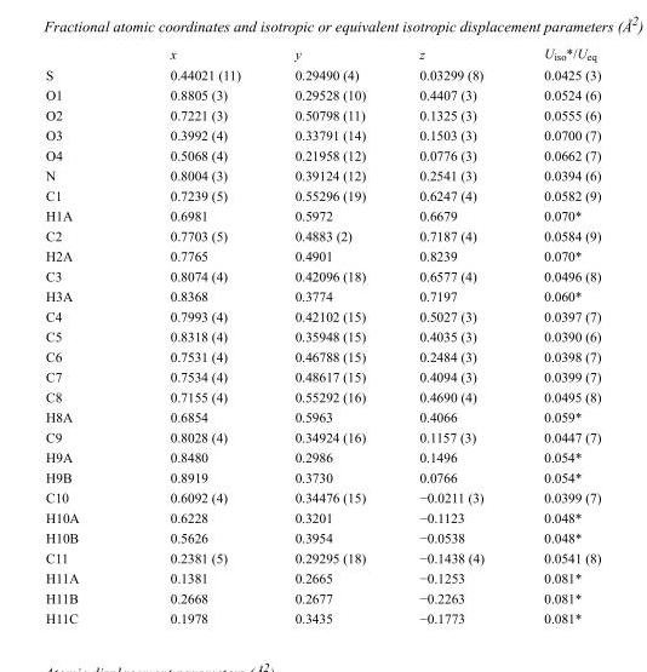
<table><thead><tr><td></td><td>x</td><td>y</td><td>z</td><td>U<sub>iso</sub>*/U<sub>eq</sub></td></tr></thead><tbody><tr><td>S</td><td>0.44021 (11)</td><td>0.29490 (4)</td><td>0.03299 (8)</td><td>0.0425 (3)</td></tr><tr><td>O1</td><td>0.8805 (3)</td><td>0.29528 (10)</td><td>0.4407 (3)</td><td>0.0524 (6)</td></tr><tr><td>O2</td><td>0.7221 (3)</td><td>0.50798 (11)</td><td>0.1325 (3)</td><td>0.0555 (6)</td></tr><tr><td>O3</td><td>0.3992 (4)</td><td>0.33791 (14)</td><td>0.1503 (3)</td><td>0.0700 (7)</td></tr><tr><td>O4</td><td>0.5068 (4)</td><td>0.21958 (12)</td><td>0.0776 (3)</td><td>0.0662 (7)</td></tr><tr><td>N</td><td>0.8004 (3)</td><td>0.39124 (12)</td><td>0.2541 (3)</td><td>0.0394 (6)</td></tr><tr><td>C1</td><td>0.7239 (5)</td><td>0.55296 (19)</td><td>0.6247 (4)</td><td>0.0582 (9)</td></tr><tr><td>H1A</td><td>0.6981</td><td>0.5972</td><td>0.6679</td><td>0.070*</td></tr><tr><td>C2</td><td>0.7703 (5)</td><td>0.4883 (2)</td><td>0.7187 (4)</td><td>0.0584 (9)</td></tr><tr><td>H2A</td><td>0.7765</td><td>0.4901</td><td>0.8239</td><td>0.070*</td></tr><tr><td>C3</td><td>0.8074 (4)</td><td>0.42096 (18)</td><td>0.6577 (4)</td><td>0.0496 (8)</td></tr><tr><td>H3A</td><td>0.8368</td><td>0.3774</td><td>0.7197</td><td>0.060*</td></tr><tr><td>C4</td><td>0.7993 (4)</td><td>0.42102 (15)</td><td>0.5027 (3)</td><td>0.0397 (7)</td></tr><tr><td>C5</td><td>0.8318 (4)</td><td>0.35948 (15)</td><td>0.4035 (3)</td><td>0.0390 (6)</td></tr><tr><td>C6</td><td>0.7531 (4)</td><td>0.46788 (15)</td><td>0.2484 (3)</td><td>0.0398 (7)</td></tr><tr><td>C7</td><td>0.7534 (4)</td><td>0.48617 (15)</td><td>0.4094 (3)</td><td>0.0399 (7)</td></tr><tr><td>C8</td><td>0.7155 (4)</td><td>0.55292 (16)</td><td>0.4690 (4)</td><td>0.0495 (8)</td></tr><tr><td>H8A</td><td>0.6854</td><td>0.5963</td><td>0.4066</td><td>0.059*</td></tr><tr><td>C9</td><td>0.8028 (4)</td><td>0.34924 (16)</td><td>0.1157 (3)</td><td>0.0447 (7)</td></tr><tr><td>H9A</td><td>0.8480</td><td>0.2986</td><td>0.1496</td><td>0.054*</td></tr><tr><td>H9B</td><td>0.8919</td><td>0.3730</td><td>0.0766</td><td>0.054*</td></tr><tr><td>C10</td><td>0.6092 (4)</td><td>0.34476 (15)</td><td>−0.0211 (3)</td><td>0.0399 (7)</td></tr><tr><td>H10A</td><td>0.6228</td><td>0.3201</td><td>−0.1123</td><td>0.048*</td></tr><tr><td>H10B</td><td>0.5626</td><td>0.3954</td><td>−0.0538</td><td>0.048*</td></tr><tr><td>C11</td><td>0.2381 (5)</td><td>0.29295 (18)</td><td>−0.1438 (4)</td><td>0.0541 (8)</td></tr><tr><td>H11A</td><td>0.1381</td><td>0.2665</td><td>−0.1253</td><td>0.081*</td></tr><tr><td>H11B</td><td>0.2668</td><td>0.2677</td><td>−0.2263</td><td>0.081*</td></tr><tr><td>H11C</td><td>0.1978</td><td>0.3435</td><td>−0.1773</td><td>0.081*</td></tr></tbody></table>